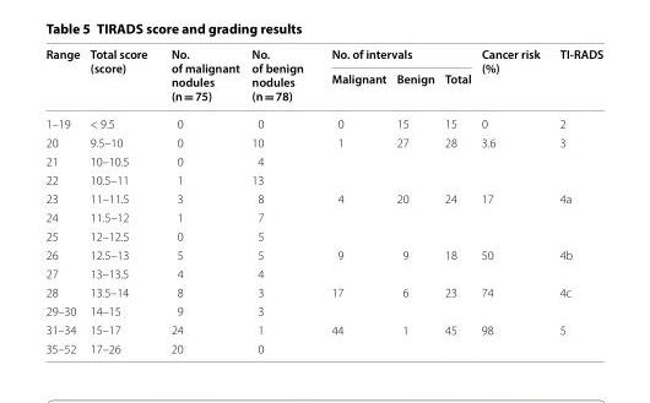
<table><thead><tr><td rowspan="2">Range</td><td rowspan="2">Total score (score)</td><td rowspan="2">No. of malignant nodules (n = 75)</td><td rowspan="2">No. of benign nodules (n = 78)</td><td colspan="3">No. of intervals</td><td rowspan="2">Cancer risk (%)</td><td rowspan="2">TI-RADS</td></tr><tr><td>Malignant</td><td>Benign</td><td>Total</td></tr></thead><tbody><tr><td>1–19</td><td>&lt; 9.5</td><td>0</td><td>0</td><td>0</td><td>15</td><td>15</td><td>0</td><td>2</td></tr><tr><td>20</td><td>9.5–10</td><td>0</td><td>10</td><td rowspan="3">1</td><td rowspan="3">27</td><td rowspan="3">28</td><td rowspan="3">3.6</td><td rowspan="3">3</td></tr><tr><td>21</td><td>10–10.5</td><td>0</td><td>4</td></tr><tr><td>22</td><td>10.5–11</td><td>1</td><td>13</td></tr><tr><td>23</td><td>11–11.5</td><td>3</td><td>8</td><td rowspan="3">4</td><td rowspan="3">20</td><td rowspan="3">24</td><td rowspan="3">17</td><td rowspan="3">4a</td></tr><tr><td>24</td><td>11.5–12</td><td>1</td><td>7</td></tr><tr><td>25</td><td>12–12.5</td><td>0</td><td>5</td></tr><tr><td>26</td><td>12.5–13</td><td>5</td><td>5</td><td rowspan="2">9</td><td rowspan="2">9</td><td rowspan="2">18</td><td rowspan="2">50</td><td rowspan="2">4b</td></tr><tr><td>27</td><td>13–13.5</td><td>4</td><td>4</td></tr><tr><td>28</td><td>13.5–14</td><td>8</td><td>3</td><td rowspan="2">17</td><td rowspan="2">6</td><td rowspan="2">23</td><td rowspan="2">74</td><td rowspan="2">4c</td></tr><tr><td>29–30</td><td>14–15</td><td>9</td><td>3</td></tr><tr><td>31–34</td><td>15–17</td><td>24</td><td>1</td><td rowspan="2">44</td><td rowspan="2">1</td><td rowspan="2">45</td><td rowspan="2">98</td><td rowspan="2">5</td></tr><tr><td>35–52</td><td>17–26</td><td>20</td><td>0</td></tr></tbody></table>